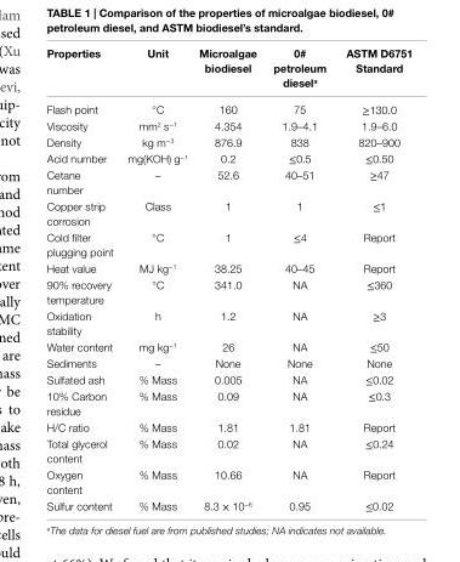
<table><thead><tr><td>Properties</td><td>Unit</td><td>Microalgae biodiesel</td><td>0# petroleum diesel<sup>a</sup></td><td>asTM D6751 standard</td></tr></thead><tbody><tr><td>Flash point</td><td>°C</td><td>160</td><td>75</td><td>≥130.0</td></tr><tr><td>Viscosity</td><td>mm<sup>2</sup> s<sup>−1</sup></td><td>4.354</td><td>1.9–4.1</td><td>1.9–6.0</td></tr><tr><td>Density</td><td>kg m<sup>−3</sup></td><td>876.9</td><td>838</td><td>820–900</td></tr><tr><td>Acid number</td><td>mg(KOH) g<sup>−1</sup></td><td>0.2</td><td>≤0.5</td><td>≤0.50</td></tr><tr><td>Cetane number</td><td>–</td><td>52.6</td><td>40–51</td><td>≥47</td></tr><tr><td>Copper strip corrosion</td><td>Class</td><td>1</td><td>1</td><td>≤1</td></tr><tr><td>Cold filter plugging point</td><td>°C</td><td>1</td><td>≤4</td><td>Report</td></tr><tr><td>Heat value</td><td>MJ kg<sup>−1</sup></td><td>38.25</td><td>40–45</td><td>Report</td></tr><tr><td>90% recovery temperature</td><td>°C</td><td>341.0</td><td>NA</td><td>≤360</td></tr><tr><td>Oxidation stability</td><td>h</td><td>1.2</td><td>NA</td><td>≥3</td></tr><tr><td>Water content</td><td>mg kg<sup>−1</sup></td><td>26</td><td>NA</td><td>≤50</td></tr><tr><td>Sediments</td><td>–</td><td>None</td><td>None</td><td>None</td></tr><tr><td>Sulfated ash</td><td>% Mass</td><td>0.005</td><td>NA</td><td>≤0.02</td></tr><tr><td>10% Carbon residue</td><td>% Mass</td><td>0.09</td><td>NA</td><td>≤0.3</td></tr><tr><td>H/C ratio</td><td>% Mass</td><td>1.81</td><td>1.81</td><td>Report</td></tr><tr><td>Total glycerol content</td><td>% Mass</td><td>0.02</td><td>NA</td><td>≤0.24</td></tr><tr><td>Oxygen content</td><td>% Mass</td><td>10.66</td><td>NA</td><td>Report</td></tr><tr><td>Sulfur content</td><td>% Mass</td><td>8.3 × 10<sup>−6</sup></td><td>0.95</td><td>≤0.02</td></tr></tbody></table>